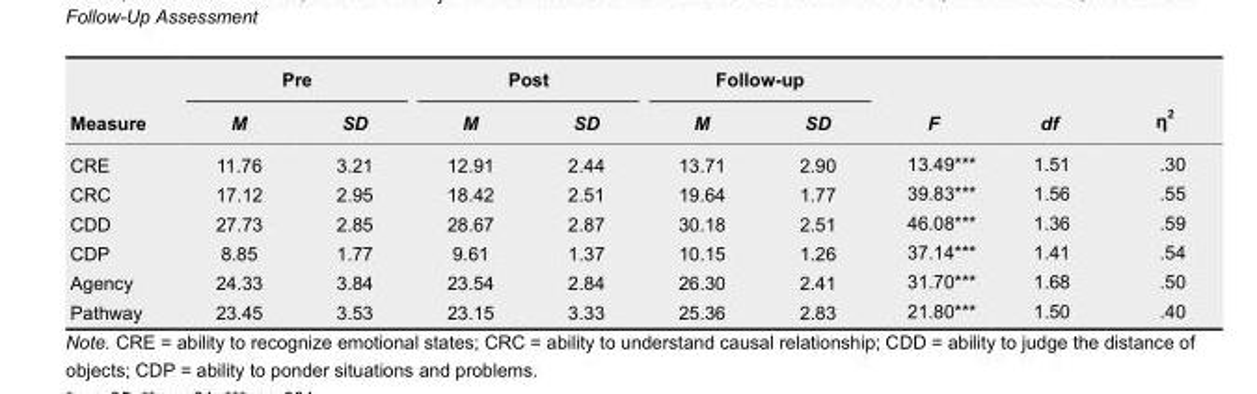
<table><thead><tr><td rowspan="2">Measure</td><td colspan="2">Pre</td><td colspan="2">Post</td><td colspan="2">Follow-up</td><td rowspan="2">F</td><td rowspan="2">df</td><td rowspan="2">η <sup>2</sup></td></tr><tr><td>M</td><td>SD</td><td>M</td><td>SD</td><td>M</td><td>SD</td></tr></thead><tbody><tr><td>CRE</td><td>11.76</td><td>3.21</td><td>12.91</td><td>2.44</td><td>13.71</td><td>2.90</td><td>13.49***</td><td>1.51</td><td>.30</td></tr><tr><td>CRC</td><td>17.12</td><td>2.95</td><td>18.42</td><td>2.51</td><td>19.64</td><td>1.77</td><td>39.83***</td><td>1.56</td><td>.55</td></tr><tr><td>CDD</td><td>27.73</td><td>2.85</td><td>28.67</td><td>2.87</td><td>30.18</td><td>2.51</td><td>46.08***</td><td>1.36</td><td>.59</td></tr><tr><td>CDP</td><td>8.85</td><td>1.77</td><td>9.61</td><td>1.37</td><td>10.15</td><td>1.26</td><td>37.14***</td><td>1.41</td><td>.54</td></tr><tr><td>Agency</td><td>24.33</td><td>3.84</td><td>23.54</td><td>2.84</td><td>26.30</td><td>2.41</td><td>31.70***</td><td>1.68</td><td>.50</td></tr><tr><td>Pathway</td><td>23.45</td><td>3.53</td><td>23.15</td><td>3.33</td><td>25.36</td><td>2.83</td><td>21.80***</td><td>1.50</td><td>.40</td></tr></tbody></table>